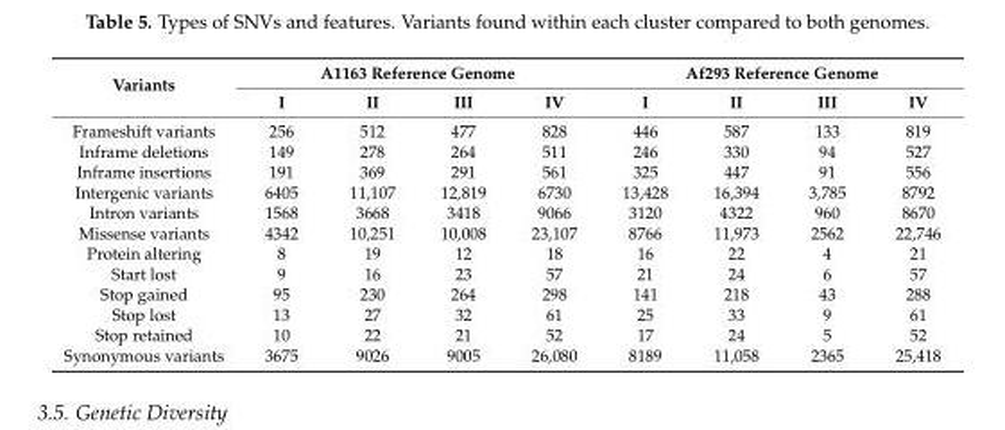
<table><thead><tr><td rowspan="2">Variants</td><td colspan="4">A1163 Reference Genome</td><td colspan="4">Af293 Reference Genome</td></tr><tr><td>I</td><td>II</td><td>III</td><td>IV</td><td>I</td><td>II</td><td>III</td><td>IV</td></tr></thead><tbody><tr><td>Frameshift variants</td><td>256</td><td>512</td><td>477</td><td>828</td><td>446</td><td>587</td><td>133</td><td>819</td></tr><tr><td>Inframe deletions</td><td>149</td><td>278</td><td>264</td><td>511</td><td>246</td><td>330</td><td>94</td><td>527</td></tr><tr><td>Inframe insertions</td><td>191</td><td>369</td><td>291</td><td>561</td><td>325</td><td>447</td><td>91</td><td>556</td></tr><tr><td>Intergenic variants</td><td>6405</td><td>11,107</td><td>12,819</td><td>6730</td><td>13,428</td><td>16,394</td><td>3,785</td><td>8792</td></tr><tr><td>Intron variants</td><td>1568</td><td>3668</td><td>3418</td><td>9066</td><td>3120</td><td>4322</td><td>960</td><td>8670</td></tr><tr><td>Missense variants</td><td>4342</td><td>10,251</td><td>10,008</td><td>23,107</td><td>8766</td><td>11,973</td><td>2562</td><td>22,746</td></tr><tr><td>Protein altering</td><td>8</td><td>19</td><td>12</td><td>18</td><td>16</td><td>22</td><td>4</td><td>21</td></tr><tr><td>Start lost</td><td>9</td><td>16</td><td>23</td><td>57</td><td>21</td><td>24</td><td>6</td><td>57</td></tr><tr><td>Stop gained</td><td>95</td><td>230</td><td>264</td><td>298</td><td>141</td><td>218</td><td>43</td><td>288</td></tr><tr><td>Stop lost</td><td>13</td><td>27</td><td>32</td><td>61</td><td>25</td><td>33</td><td>9</td><td>61</td></tr><tr><td>Stop retained</td><td>10</td><td>22</td><td>21</td><td>52</td><td>17</td><td>24</td><td>5</td><td>52</td></tr><tr><td>Synonymous variants</td><td>3675</td><td>9026</td><td>9005</td><td>26,080</td><td>8189</td><td>11,058</td><td>2365</td><td>25,418</td></tr></tbody></table>